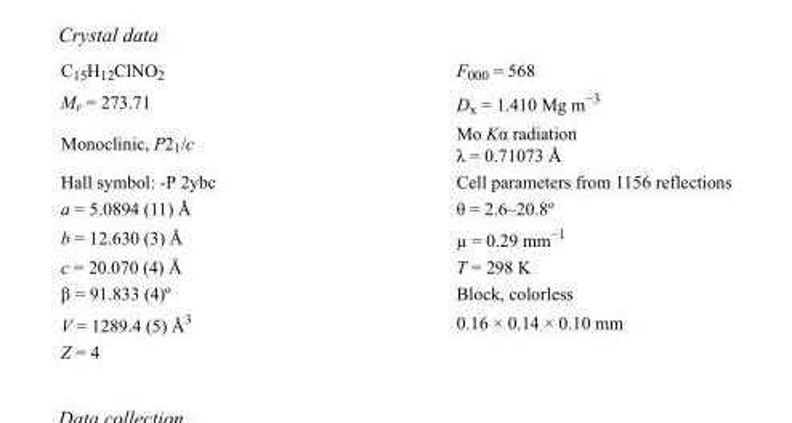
<table><tbody><tr><td>C<sub>15</sub>H<sub>12</sub>ClNO<sub>2</sub></td><td>F000 = 568</td></tr><tr><td>M<sub>r</sub> = 273.71</td><td>D<sub>x</sub> = 1.410 Mg m<sup>−3</sup></td></tr><tr><td>Monoclinic, P2<sub>1</sub>/c</td><td>Mo Kα radiation λ = 0.71073 Å</td></tr><tr><td>Hall symbol: -P 2ybc</td><td>Cell parameters from 1156 reflections</td></tr><tr><td>a = 5.0894 (11) Å</td><td>θ = 2.6–20.8º</td></tr><tr><td>b = 12.630 (3) Å</td><td>µ = 0.29 mm<sup>−1</sup></td></tr><tr><td>c = 20.070 (4) Å</td><td>T = 298 K</td></tr><tr><td>β = 91.833 (4)º</td><td>Block, colorless</td></tr><tr><td>V = 1289.4 (5) Å<sup>3</sup></td><td>0.16 × 0.14 × 0.10 mm</td></tr><tr><td>Z = 4</td><td></td></tr></tbody></table>